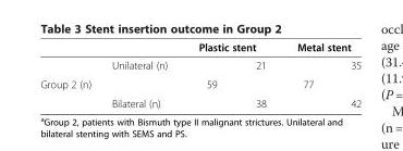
<table><thead><tr><td rowspan="2"></td><td rowspan="2">Unilateral (n)</td><td colspan="2">Plastic stent</td><td colspan="2">Metal stent</td></tr><tr><td></td><td>21</td><td></td><td>35</td></tr></thead><tbody><tr><td rowspan="2">Group 2 (n)</td><td></td><td>59</td><td></td><td>77</td><td></td></tr><tr><td>Bilateral (n)</td><td></td><td>38</td><td></td><td>42</td></tr></tbody></table>